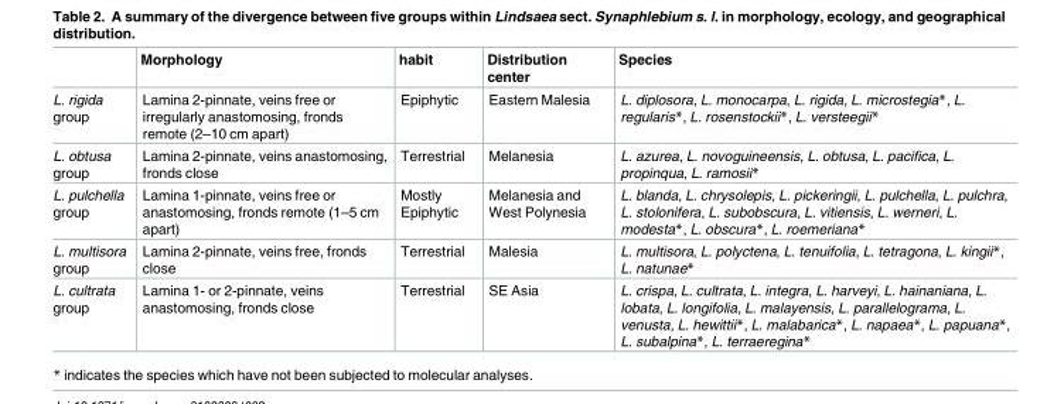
<table><thead><tr><td></td><td>Morphology</td><td>habit</td><td>Distribution center</td><td>Species</td></tr></thead><tbody><tr><td>L. rigida group</td><td>Lamina 2-pinnate, veins free or irregularly anastomosing, fronds remote (2–10 cm apart)</td><td>Epiphytic</td><td>Eastern Malesia</td><td>L. diplosora, L. monocarpa, L. rigida, L. microstegia*, L. regularis*, L. rosenstockii*, L. versteegii*</td></tr><tr><td>L. obtusa group</td><td>Lamina 2-pinnate, veins anastomosing, fronds close</td><td>Terrestrial</td><td>Melanesia</td><td>L. azurea, L. novoguineensis, L. obtusa, L. pacifica, L. propinqua, L. ramosii*</td></tr><tr><td>L. pulchella group</td><td>Lamina 1-pinnate, veins free or anastomosing, fronds remote (1–5 cm apart)</td><td>Mostly Epiphytic</td><td>Melanesia and West Polynesia</td><td>L. blanda, L. chrysolepis, L. pickeringii, L. pulchella, L. pulchra, L. stolonifera, L. subobscura, L. vitiensis, L. werneri, L. modesta*, L. obscura*, L. roemeriana*</td></tr><tr><td>L. multisora group</td><td>Lamina 2-pinnate, veins free, fronds close</td><td>Terrestrial</td><td>Malesia</td><td>L. multisora, L. polyctena, L. tenuifolia, L. tetragona, L. kingii*, L. natunae*</td></tr><tr><td>L. cultrata group</td><td>Lamina 1- or 2-pinnate, veins anastomosing, fronds close</td><td>Terrestrial</td><td>SE Asia</td><td>L. crispa, L. cultrata, L. integra, L. harveyi, L. hainaniana, L. lobata, L. longifolia, L. malayensis, L. parallelograma, L. venusta, L. hewittii*, L. malabarica*, L. napaea*, L. papuana*, L. subalpina*, L. terraeregina*</td></tr></tbody></table>